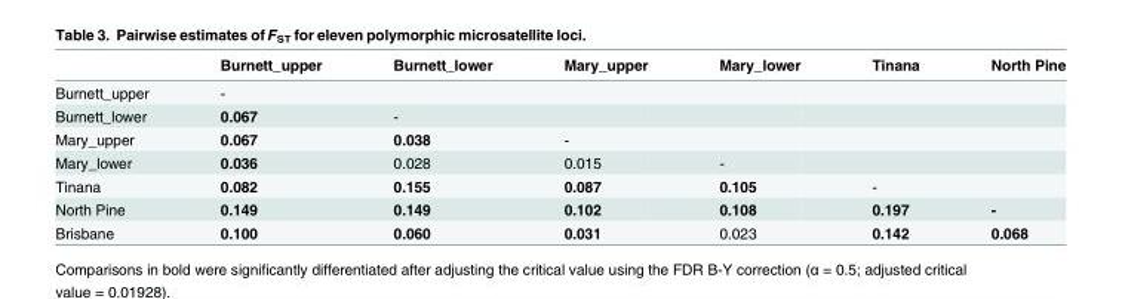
<table><thead><tr><td></td><td>Burnett_upper</td><td>Burnett_lower</td><td>Mary_upper</td><td>Mary_lower</td><td>Tinana</td><td>North Pine</td></tr></thead><tbody><tr><td>Burnett_upper</td><td>-</td><td></td><td></td><td></td><td></td><td></td></tr><tr><td>Burnett_lower</td><td>0.067</td><td>-</td><td></td><td></td><td></td><td></td></tr><tr><td>Mary_upper</td><td>0.067</td><td>0.038</td><td>-</td><td></td><td></td><td></td></tr><tr><td>Mary_lower</td><td>0.036</td><td>0.028</td><td>0.015</td><td>-</td><td></td><td></td></tr><tr><td>Tinana</td><td>0.082</td><td>0.155</td><td>0.087</td><td>0.105</td><td>-</td><td></td></tr><tr><td>North Pine</td><td>0.149</td><td>0.149</td><td>0.102</td><td>0.108</td><td>0.197</td><td>-</td></tr><tr><td>Brisbane</td><td>0.100</td><td>0.060</td><td>0.031</td><td>0.023</td><td>0.142</td><td>0.068</td></tr></tbody></table>